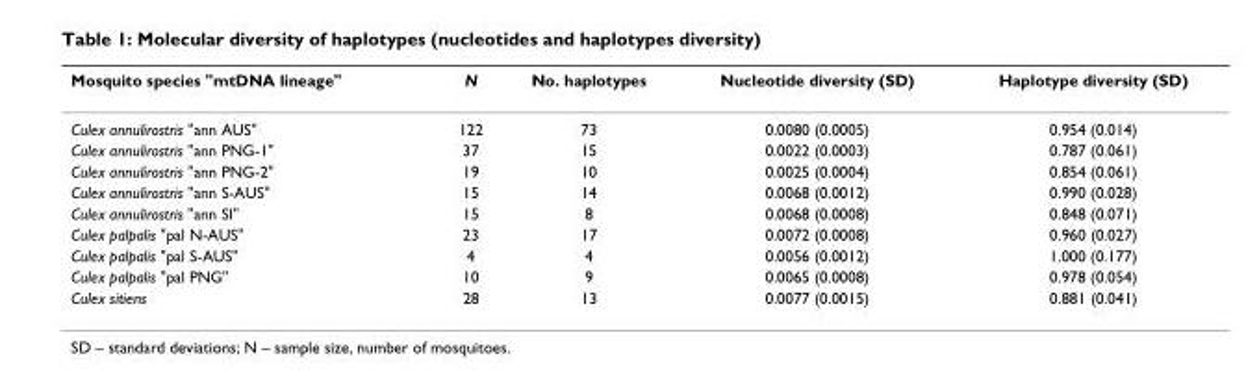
<table><thead><tr><td>Mosquito species &quot;mtDNA lineage&quot;</td><td>N</td><td>No. haplotypes</td><td>Nucleotide diversity (SD)</td><td>Haplotype diversity (SD)</td></tr></thead><tbody><tr><td>Culex annulirostris &quot;ann AUS&quot;</td><td>122</td><td>73</td><td>0.0080 (0.0005)</td><td>0.954 (0.014)</td></tr><tr><td>Culex annulirostris &quot;ann PNG-1&quot;</td><td>37</td><td>15</td><td>0.0022 (0.0003)</td><td>0.787 (0.061)</td></tr><tr><td>Culex annulirostris &quot;ann PNG-2&quot;</td><td>19</td><td>10</td><td>0.0025 (0.0004)</td><td>0.854 (0.061)</td></tr><tr><td>Culex annulirostris &quot;ann S-AUS&quot;</td><td>15</td><td>14</td><td>0.0068 (0.0012)</td><td>0.990 (0.028)</td></tr><tr><td>Culex annulirostris &quot;ann SI&quot;</td><td>15</td><td>8</td><td>0.0068 (0.0008)</td><td>0.848 (0.071)</td></tr><tr><td>Culex palpalis &quot;pal N-AUS&quot;</td><td>23</td><td>17</td><td>0.0072 (0.0008)</td><td>0.960 (0.027)</td></tr><tr><td>Culex palpalis &quot;pal S-AUS&quot;</td><td>4</td><td>4</td><td>0.0056 (0.0012)</td><td>1.000 (0.177)</td></tr><tr><td>Culex palpalis &quot;pal PNG&quot;</td><td>10</td><td>9</td><td>0.0065 (0.0008)</td><td>0.978 (0.054)</td></tr><tr><td>Culex sitiens</td><td>28</td><td>13</td><td>0.0077 (0.0015)</td><td>0.881 (0.041)</td></tr></tbody></table>